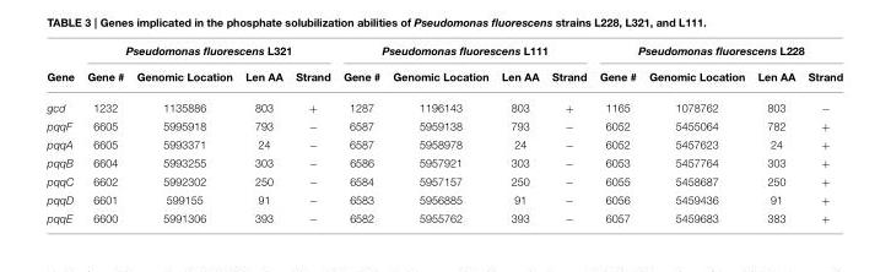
<table><thead><tr><td rowspan="2">Gene</td><td colspan="4">Pseudomonas fluorescens L321</td><td colspan="4">Pseudomonas fluorescens L111</td><td colspan="4">Pseudomonas fluorescens L228</td></tr><tr><td>Gene #</td><td>Genomic Location</td><td>Len AA</td><td>Strand</td><td>Gene #</td><td>Genomic Location</td><td>Len AA</td><td>Strand</td><td>Gene #</td><td>Genomic Location</td><td>Len AA</td><td>Strand</td></tr></thead><tbody><tr><td>gcd</td><td>1232</td><td>1135886</td><td>803</td><td>+</td><td>1287</td><td>1196143</td><td>803</td><td>+</td><td>1165</td><td>1078762</td><td>803</td><td>−</td></tr><tr><td>pqqF</td><td>6605</td><td>5995918</td><td>793</td><td>−</td><td>6587</td><td>5959138</td><td>793</td><td>−</td><td>6052</td><td>5455064</td><td>782</td><td>+</td></tr><tr><td>pqqA</td><td>6605</td><td>5993371</td><td>24</td><td>−</td><td>6587</td><td>5958978</td><td>24</td><td>−</td><td>6052</td><td>5457623</td><td>24</td><td>+</td></tr><tr><td>pqqB</td><td>6604</td><td>5993255</td><td>303</td><td>−</td><td>6586</td><td>5957921</td><td>303</td><td>−</td><td>6053</td><td>5457764</td><td>303</td><td>+</td></tr><tr><td>pqqC</td><td>6602</td><td>5992302</td><td>250</td><td>−</td><td>6584</td><td>5957157</td><td>250</td><td>−</td><td>6055</td><td>5458687</td><td>250</td><td>+</td></tr><tr><td>pqqD</td><td>6601</td><td>599155</td><td>91</td><td>−</td><td>6583</td><td>5956885</td><td>91</td><td>−</td><td>6056</td><td>5459436</td><td>91</td><td>+</td></tr><tr><td>pqqE</td><td>6600</td><td>5991306</td><td>393</td><td>−</td><td>6582</td><td>5955762</td><td>393</td><td>−</td><td>6057</td><td>5459683</td><td>383</td><td>+</td></tr></tbody></table>